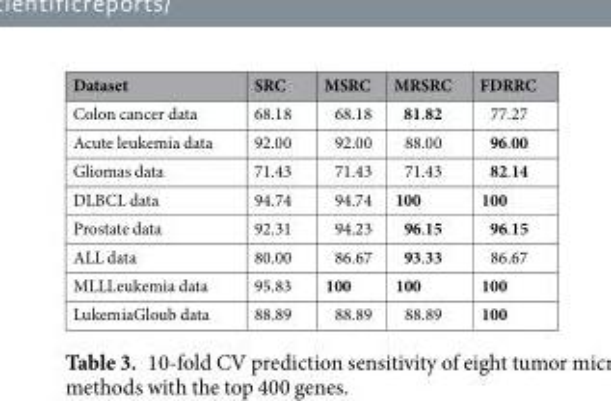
<table><thead><tr><td>Dataset</td><td>SRC</td><td>MSRC</td><td>MRSRC</td><td>FDRRC</td></tr></thead><tbody><tr><td>Colon cancer data</td><td>68.18</td><td>68.18</td><td>81.82</td><td>77.27</td></tr><tr><td>Acute leukemia data</td><td>92.00</td><td>92.00</td><td>88.00</td><td>96.00</td></tr><tr><td>Gliomas data</td><td>71.43</td><td>71.43</td><td>71.43</td><td>82.14</td></tr><tr><td>DLBCL data</td><td>94.74</td><td>94.74</td><td>100</td><td>100</td></tr><tr><td>Prostate data</td><td>92.31</td><td>94.23</td><td>96.15</td><td>96.15</td></tr><tr><td>ALL data</td><td>80.00</td><td>86.67</td><td>93.33</td><td>86.67</td></tr><tr><td>MLLLeukemia data</td><td>95.83</td><td>100</td><td>100</td><td>100</td></tr><tr><td>LukemiaGloub data</td><td>88.89</td><td>88.89</td><td>88.89</td><td>100</td></tr></tbody></table>